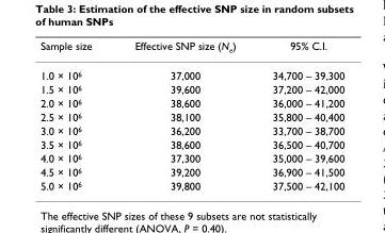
<table><thead><tr><td>Sample size</td><td>Effective SNP size (Ne)</td><td>95% C.I.</td></tr></thead><tbody><tr><td>1.0 × 106</td><td>37,000</td><td>34,700 – 39,300</td></tr><tr><td>1.5 × 106</td><td>39,600</td><td>37,200 – 42,000</td></tr><tr><td>2.0 × 106</td><td>38,600</td><td>36,000 – 41,200</td></tr><tr><td>2.5 × 106</td><td>38,100</td><td>35,800 – 40,400</td></tr><tr><td>3.0 × 106</td><td>36,200</td><td>33,700 – 38,700</td></tr><tr><td>3.5 × 106</td><td>38,600</td><td>36,500 – 40,700</td></tr><tr><td>4.0 × 106</td><td>37,300</td><td>35,000 – 39,600</td></tr><tr><td>4.5 × 106</td><td>39,200</td><td>36,900 – 41,500</td></tr><tr><td>5.0 × 106</td><td>39,800</td><td>37,500 – 42,100</td></tr></tbody></table>